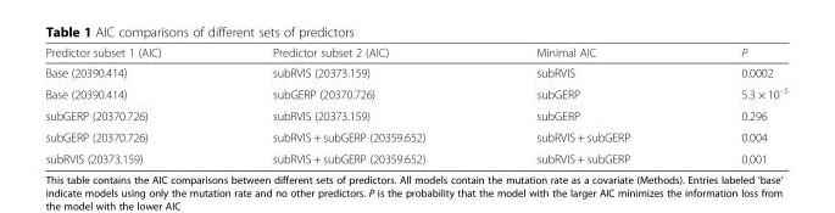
<table><thead><tr><td>Predictor subset 1 (AIC)</td><td>Predictor subset 2 (AIC)</td><td>Minimal AIC</td><td>P</td></tr></thead><tbody><tr><td>Base (20390.414)</td><td>subRVIS (20373.159)</td><td>subRVIS</td><td>0.0002</td></tr><tr><td>Base (20390.414)</td><td>subGERP (20370.726)</td><td>subGERP</td><td>5.3 × 10<sup>–5</sup></td></tr><tr><td>subGERP (20370.726)</td><td>subRVIS (20373.159)</td><td>subGERP</td><td>0.296</td></tr><tr><td>subGERP (20370.726)</td><td>subRVIS + subGERP (20359.652)</td><td>subRVIS + subGERP</td><td>0.004</td></tr><tr><td>subRVIS (20373.159)</td><td>subRVIS + subGERP (20359.652)</td><td>subRVIS + subGERP</td><td>0.001</td></tr></tbody></table>